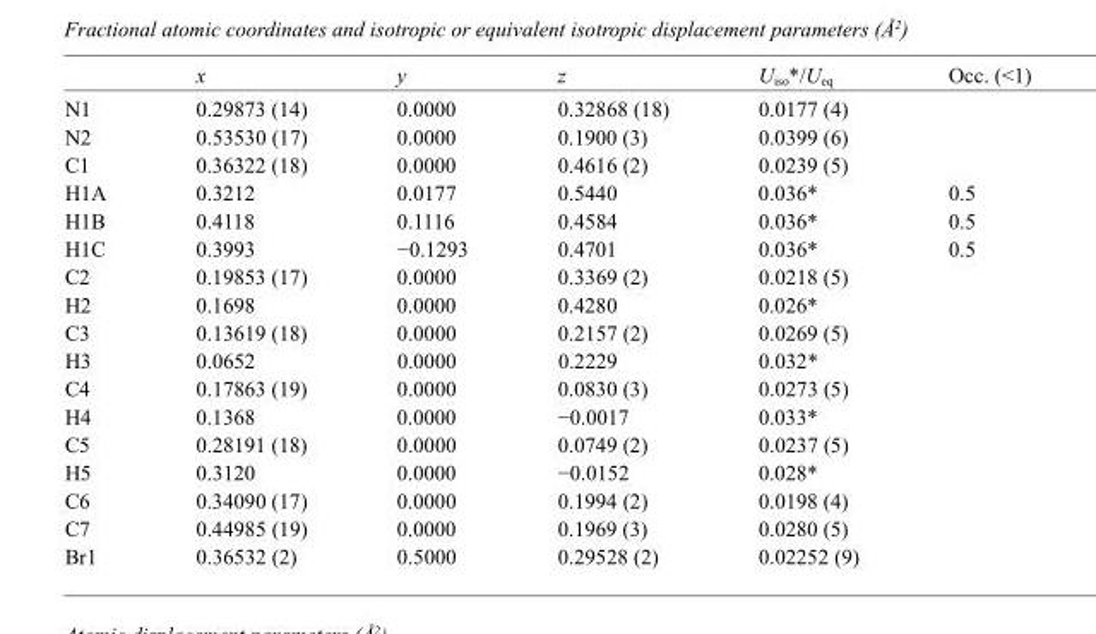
<table><thead><tr><td></td><td>x</td><td>y</td><td>z</td><td>U<sub>iso</sub>*/U<sub>eq</sub></td><td>Occ. (&lt;1)</td></tr></thead><tbody><tr><td>N1</td><td>0.29873 (14)</td><td>0.0000</td><td>0.32868 (18)</td><td>0.0177 (4)</td><td></td></tr><tr><td>N2</td><td>0.53530 (17)</td><td>0.0000</td><td>0.1900 (3)</td><td>0.0399 (6)</td><td></td></tr><tr><td>C1</td><td>0.36322 (18)</td><td>0.0000</td><td>0.4616 (2)</td><td>0.0239 (5)</td><td></td></tr><tr><td>H1A</td><td>0.3212</td><td>0.0177</td><td>0.5440</td><td>0.036*</td><td>0.5</td></tr><tr><td>H1B</td><td>0.4118</td><td>0.1116</td><td>0.4584</td><td>0.036*</td><td>0.5</td></tr><tr><td>H1C</td><td>0.3993</td><td>−0.1293</td><td>0.4701</td><td>0.036*</td><td>0.5</td></tr><tr><td>C2</td><td>0.19853 (17)</td><td>0.0000</td><td>0.3369 (2)</td><td>0.0218 (5)</td><td></td></tr><tr><td>H2</td><td>0.1698</td><td>0.0000</td><td>0.4280</td><td>0.026*</td><td></td></tr><tr><td>C3</td><td>0.13619 (18)</td><td>0.0000</td><td>0.2157 (2)</td><td>0.0269 (5)</td><td></td></tr><tr><td>H3</td><td>0.0652</td><td>0.0000</td><td>0.2229</td><td>0.032*</td><td></td></tr><tr><td>C4</td><td>0.17863 (19)</td><td>0.0000</td><td>0.0830 (3)</td><td>0.0273 (5)</td><td></td></tr><tr><td>H4</td><td>0.1368</td><td>0.0000</td><td>−0.0017</td><td>0.033*</td><td></td></tr><tr><td>C5</td><td>0.28191 (18)</td><td>0.0000</td><td>0.0749 (2)</td><td>0.0237 (5)</td><td></td></tr><tr><td>H5</td><td>0.3120</td><td>0.0000</td><td>−0.0152</td><td>0.028*</td><td></td></tr><tr><td>C6</td><td>0.34090 (17)</td><td>0.0000</td><td>0.1994 (2)</td><td>0.0198 (4)</td><td></td></tr><tr><td>C7</td><td>0.44985 (19)</td><td>0.0000</td><td>0.1969 (3)</td><td>0.0280 (5)</td><td></td></tr><tr><td>Br1</td><td>0.36532 (2)</td><td>0.5000</td><td>0.29528 (2)</td><td>0.02252 (9)</td><td></td></tr></tbody></table>